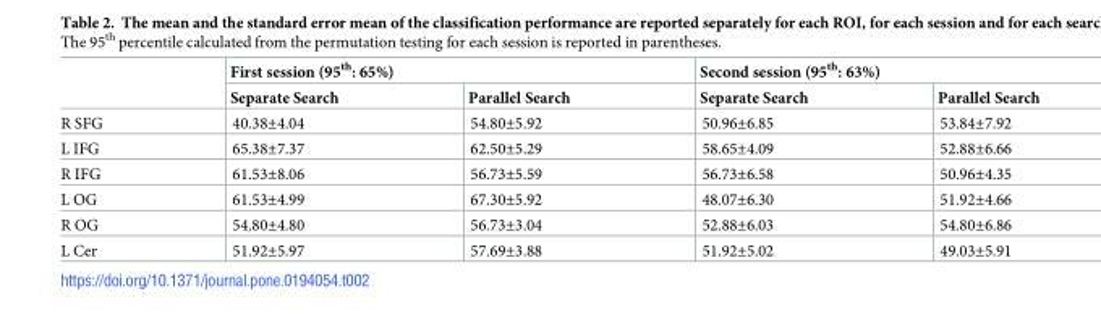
<table><thead><tr><td rowspan="2"></td><td colspan="2">First session (95<sup>th</sup>: 65%)</td><td colspan="2">Second session (95<sup>th</sup>: 63%)</td></tr><tr><td>Separate Search</td><td>Parallel Search</td><td>Separate Search</td><td>Parallel Search</td></tr></thead><tbody><tr><td>R SFG</td><td>40.38±4.04</td><td>54.80±5.92</td><td>50.96±6.85</td><td>53.84±7.92</td></tr><tr><td>L IFG</td><td>65.38±7.37</td><td>62.50±5.29</td><td>58.65±4.09</td><td>52.88±6.66</td></tr><tr><td>R IFG</td><td>61.53±8.06</td><td>56.73±5.59</td><td>56.73±6.58</td><td>50.96±4.35</td></tr><tr><td>L OG</td><td>61.53±4.99</td><td>67.30±5.92</td><td>48.07±6.30</td><td>51.92±4.66</td></tr><tr><td>R OG</td><td>54.80±4.80</td><td>56.73±3.04</td><td>52.88±6.03</td><td>54.80±6.86</td></tr><tr><td>L Cer</td><td>51.92±5.97</td><td>57.69±3.88</td><td>51.92±5.02</td><td>49.03±5.91</td></tr></tbody></table>